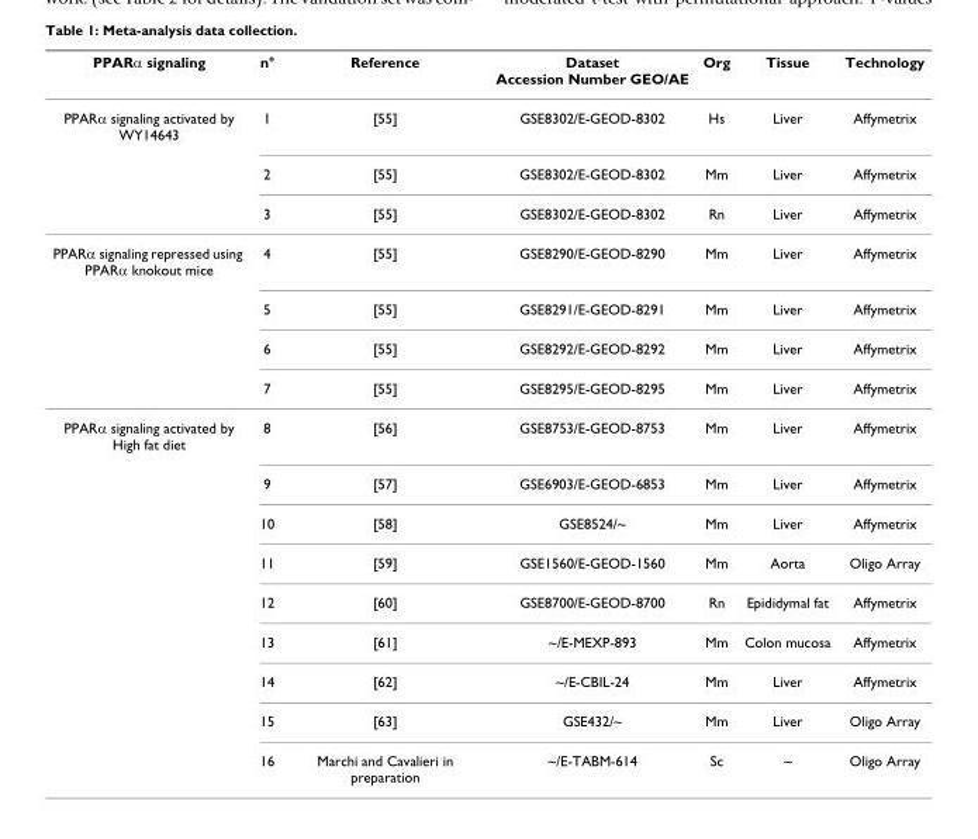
<table><thead><tr><td>PPARα signaling</td><td>n°</td><td>Reference</td><td>Dataset Accession Number GEO/AE</td><td>Org</td><td>Tissue</td><td>Technology</td></tr></thead><tbody><tr><td rowspan="3">PPARα signaling activated by WY14643</td><td>1</td><td>[55]</td><td>GSE8302/E-GEOD-8302</td><td>Hs</td><td>Liver</td><td>Affymetrix</td></tr><tr><td>2</td><td>[55]</td><td>GSE8302/E-GEOD-8302</td><td>Mm</td><td>Liver</td><td>Affymetrix</td></tr><tr><td>3</td><td>[55]</td><td>GSE8302/E-GEOD-8302</td><td>Rn</td><td>Liver</td><td>Affymetrix</td></tr><tr><td rowspan="4">PPARα signaling repressed using PPARα knokout mice</td><td>4</td><td>[55]</td><td>GSE8290/E-GEOD-8290</td><td>Mm</td><td>Liver</td><td>Affymetrix</td></tr><tr><td>5</td><td>[55]</td><td>GSE8291/E-GEOD-8291</td><td>Mm</td><td>Liver</td><td>Affymetrix</td></tr><tr><td>6</td><td>[55]</td><td>GSE8292/E-GEOD-8292</td><td>Mm</td><td>Liver</td><td>Affymetrix</td></tr><tr><td>7</td><td>[55]</td><td>GSE8295/E-GEOD-8295</td><td>Mm</td><td>Liver</td><td>Affymetrix</td></tr><tr><td rowspan="9">PPARα signaling activated by High fat diet</td><td>8</td><td>[56]</td><td>GSE8753/E-GEOD-8753</td><td>Mm</td><td>Liver</td><td>Affymetrix</td></tr><tr><td>9</td><td>[57]</td><td>GSE6903/E-GEOD-6853</td><td>Mm</td><td>Liver</td><td>Affymetrix</td></tr><tr><td>10</td><td>[58]</td><td>GSE8524/~</td><td>Mm</td><td>Liver</td><td>Affymetrix</td></tr><tr><td>11</td><td>[59]</td><td>GSE1560/E-GEOD-1560</td><td>Mm</td><td>Aorta</td><td>Oligo Array</td></tr><tr><td>12</td><td>[60]</td><td>GSE8700/E-GEOD-8700</td><td>Rn</td><td>Epididymal fat</td><td>Affymetrix</td></tr><tr><td>13</td><td>[61]</td><td>~/E-MEXP-893</td><td>Mm</td><td>Colon mucosa</td><td>Affymetrix</td></tr><tr><td>14</td><td>[62]</td><td>~/E-CBIL-24</td><td>Mm</td><td>Liver</td><td>Affymetrix</td></tr><tr><td>15</td><td>[63]</td><td>GSE432/~</td><td>Mm</td><td>Liver</td><td>Oligo Array</td></tr><tr><td>16</td><td>Marchi and Cavalieri in preparation</td><td>~/E-TABM-614</td><td>Sc</td><td>~</td><td>Oligo Array</td></tr></tbody></table>